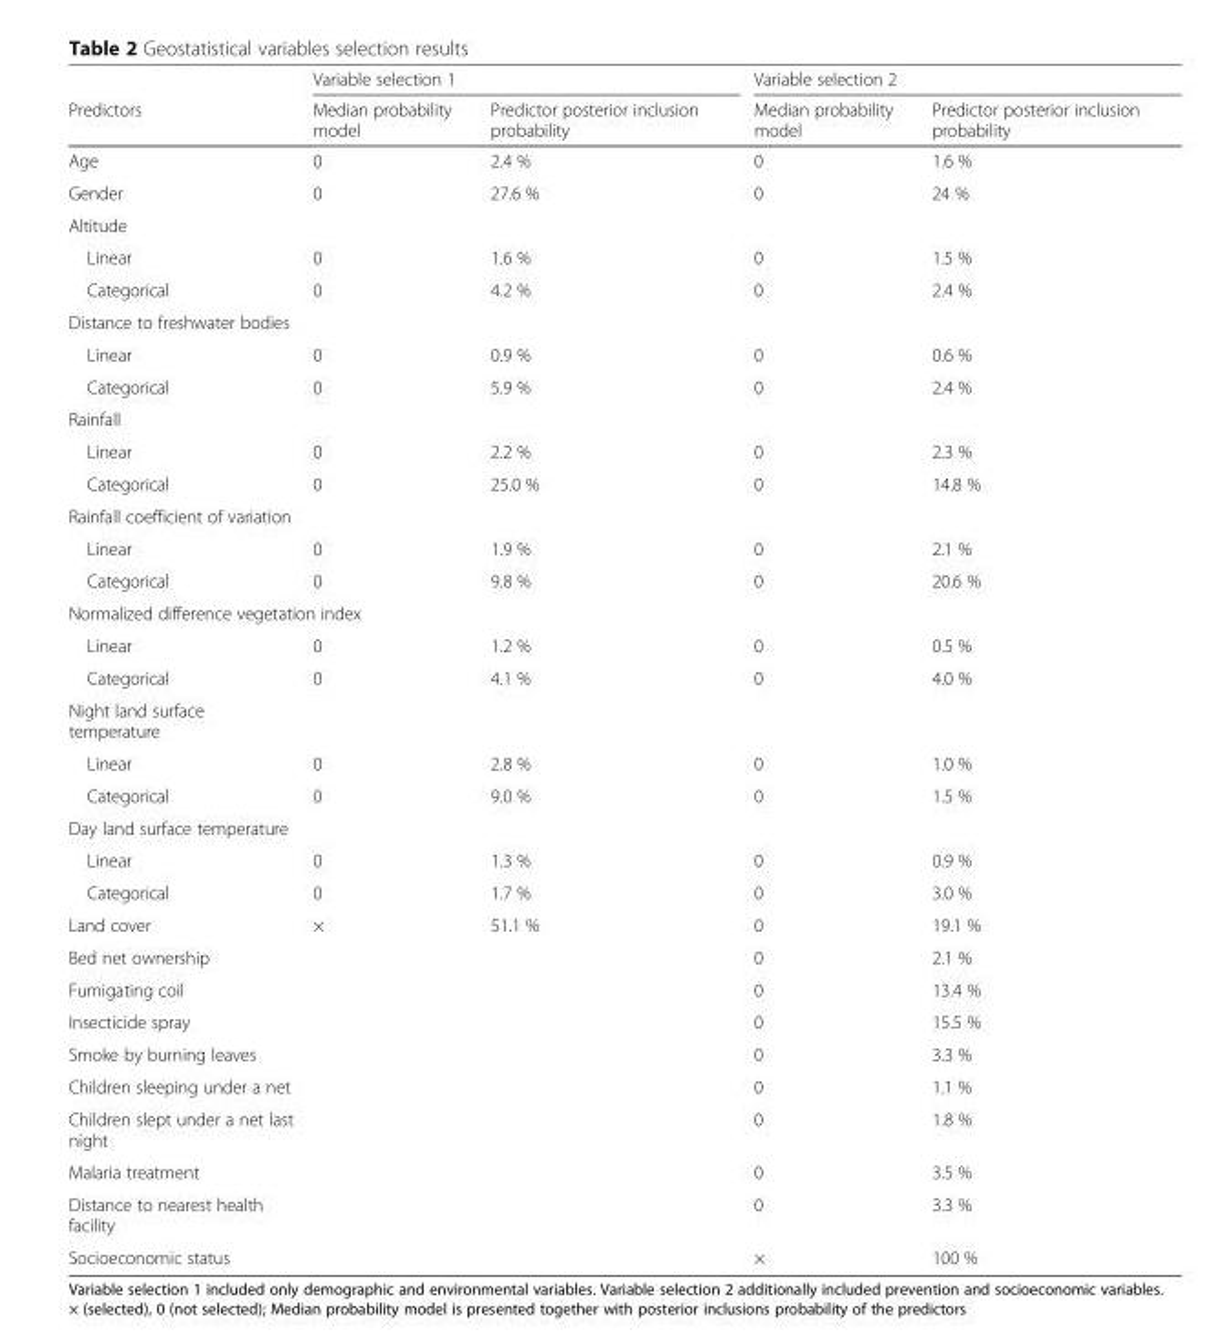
<table><thead><tr><td rowspan="2">Predictors</td><td colspan="2">Variable selection 1</td><td colspan="2">Variable selection 2</td></tr><tr><td>Median probability model</td><td>Predictor posterior inclusion probability</td><td>Median probability model</td><td>Predictor posterior inclusion probability</td></tr></thead><tbody><tr><td>Age</td><td>0</td><td>2.4 %</td><td>0</td><td>1.6 %</td></tr><tr><td>Gender</td><td>0</td><td>27.6 %</td><td>0</td><td>24 %</td></tr><tr><td colspan="5">Altitude</td></tr><tr><td>Linear</td><td>0</td><td>1.6 %</td><td>0</td><td>1.5 %</td></tr><tr><td>Categorical</td><td>0</td><td>4.2 %</td><td>0</td><td>2.4 %</td></tr><tr><td colspan="5">Distance to freshwater bodies</td></tr><tr><td>Linear</td><td>0</td><td>0.9 %</td><td>0</td><td>0.6 %</td></tr><tr><td>Categorical</td><td>0</td><td>5.9 %</td><td>0</td><td>2.4 %</td></tr><tr><td colspan="5">Rainfall</td></tr><tr><td>Linear</td><td>0</td><td>2.2 %</td><td>0</td><td>2.3 %</td></tr><tr><td>Categorical</td><td>0</td><td>25.0 %</td><td>0</td><td>14.8 %</td></tr><tr><td colspan="5">Rainfall coefficient of variation</td></tr><tr><td>Linear</td><td>0</td><td>1.9 %</td><td>0</td><td>2.1 %</td></tr><tr><td>Categorical</td><td>0</td><td>9.8 %</td><td>0</td><td>20.6 %</td></tr><tr><td colspan="5">Normalized difference vegetation index</td></tr><tr><td>Linear</td><td>0</td><td>1.2 %</td><td>0</td><td>0.5 %</td></tr><tr><td>Categorical</td><td>0</td><td>4.1 %</td><td>0</td><td>4.0 %</td></tr><tr><td colspan="5">Night land surface temperature</td></tr><tr><td>Linear</td><td>0</td><td>2.8 %</td><td>0</td><td>1.0 %</td></tr><tr><td>Categorical</td><td>0</td><td>9.0 %</td><td>0</td><td>1.5 %</td></tr><tr><td colspan="5">Day land surface temperature</td></tr><tr><td>Linear</td><td>0</td><td>1.3 %</td><td>0</td><td>0.9 %</td></tr><tr><td>Categorical</td><td>0</td><td>1.7 %</td><td>0</td><td>3.0 %</td></tr><tr><td>Land cover</td><td>×</td><td>51.1 %</td><td>0</td><td>19.1 %</td></tr><tr><td>Bed net ownership</td><td></td><td></td><td>0</td><td>2.1 %</td></tr><tr><td>Fumigating coil</td><td></td><td></td><td>0</td><td>13.4 %</td></tr><tr><td>Insecticide spray</td><td></td><td></td><td>0</td><td>15.5 %</td></tr><tr><td>Smoke by burning leaves</td><td></td><td></td><td>0</td><td>3.3 %</td></tr><tr><td>Children sleeping under a net</td><td></td><td></td><td>0</td><td>1.1 %</td></tr><tr><td>Children slept under a net last night</td><td></td><td></td><td>0</td><td>1.8 %</td></tr><tr><td>Malaria treatment</td><td></td><td></td><td>0</td><td>3.5 %</td></tr><tr><td>Distance to nearest health facility</td><td></td><td></td><td>0</td><td>3.3 %</td></tr><tr><td>Socioeconomic status</td><td></td><td></td><td>×</td><td>100 %</td></tr></tbody></table>